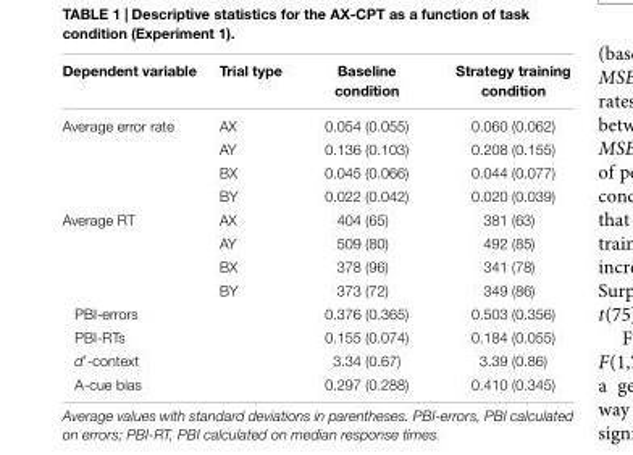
<table><thead><tr><td>Dependent variable</td><td>Trial type</td><td>Baseline condition</td><td>Strategy training condition</td></tr></thead><tbody><tr><td rowspan="4">Average error rate</td><td>AX</td><td>0.054 (0.055)</td><td>0.060 (0.062)</td></tr><tr><td>AY</td><td>0.136 (0.103)</td><td>0.208 (0.155)</td></tr><tr><td>BX</td><td>0.045 (0.066)</td><td>0.044 (0.077)</td></tr><tr><td>BY</td><td>0.022 (0.042)</td><td>0.020 (0.039)</td></tr><tr><td rowspan="4">Average RT</td><td>AX</td><td>404 (65)</td><td>381 (63)</td></tr><tr><td>AY</td><td>509 (80)</td><td>492 (85)</td></tr><tr><td>BX</td><td>378 (96)</td><td>341 (78)</td></tr><tr><td>BY</td><td>373 (72)</td><td>349 (86)</td></tr><tr><td colspan="2">PBI-errors</td><td>0.376 (0.365)</td><td>0.503 (0.356)</td></tr><tr><td colspan="2">PBI-RTs</td><td>0.155 (0.074)</td><td>0.184 (0.055)</td></tr><tr><td colspan="2">d′-context</td><td>3.34 (0.67)</td><td>3.39 (0.86)</td></tr><tr><td colspan="2">A-cue bias</td><td>0.297 (0.288)</td><td>0.410 (0.345)</td></tr></tbody></table>